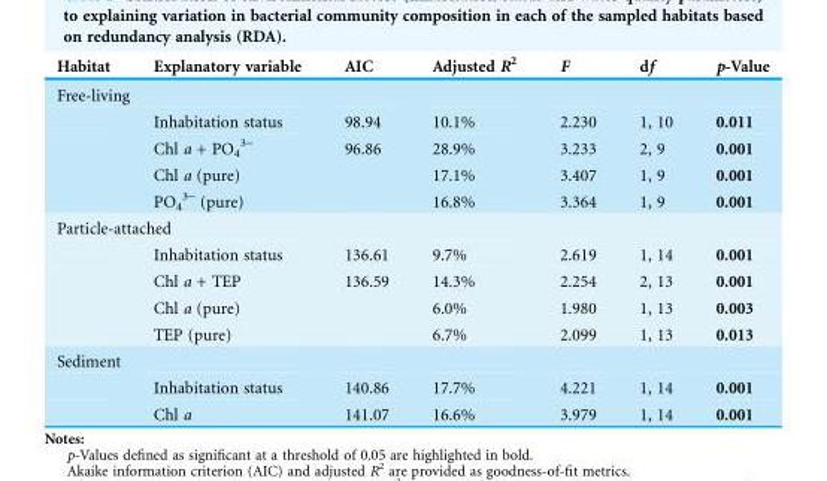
<table><thead><tr><td>Habitat</td><td>Explanatory variable</td><td>AIC</td><td>Adjusted R<sup>2</sup></td><td>F</td><td>df</td><td>p-Value</td></tr></thead><tbody><tr><td colspan="7">Free-living</td></tr><tr><td></td><td>Inhabitation status</td><td>98.94</td><td>10.1%</td><td>2.230</td><td>1, 10</td><td>0.011</td></tr><tr><td></td><td>Chl a + PO<sub>4</sub> <sup>3-</sup></td><td>96.86</td><td>28.9%</td><td>3.233</td><td>2, 9</td><td>0.001</td></tr><tr><td></td><td>Chl a (pure)</td><td></td><td>17.1%</td><td>3.407</td><td>1, 9</td><td>0.001</td></tr><tr><td></td><td>PO<sub>4</sub> <sup>3-</sup> (pure)</td><td></td><td>16.8%</td><td>3.364</td><td>1, 9</td><td>0.001</td></tr><tr><td colspan="7">Particle-attached</td></tr><tr><td></td><td>Inhabitation status</td><td>136.61</td><td>9.7%</td><td>2.619</td><td>1, 14</td><td>0.001</td></tr><tr><td></td><td>Chl a + TEP</td><td>136.59</td><td>14.3%</td><td>2.254</td><td>2, 13</td><td>0.001</td></tr><tr><td></td><td>Chl a (pure)</td><td></td><td>6.0%</td><td>1.980</td><td>1, 13</td><td>0.003</td></tr><tr><td></td><td>TEP (pure)</td><td></td><td>6.7%</td><td>2.099</td><td>1, 13</td><td>0.013</td></tr><tr><td colspan="7">Sediment</td></tr><tr><td></td><td>Inhabitation status</td><td>140.86</td><td>17.7%</td><td>4.221</td><td>1, 14</td><td>0.001</td></tr><tr><td></td><td>Chl a</td><td>141.07</td><td>16.6%</td><td>3.979</td><td>1, 14</td><td>0.001</td></tr></tbody></table>